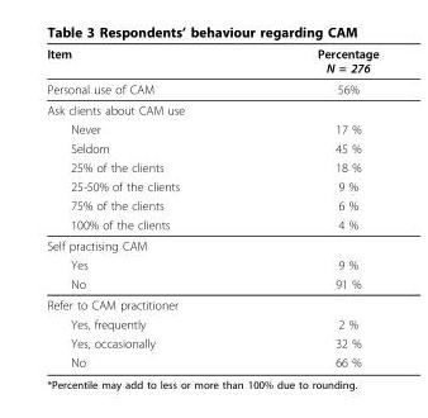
<table><thead><tr><td>Item</td><td>Percentage N = 276</td></tr></thead><tbody><tr><td>Personal use of CAM</td><td>56%</td></tr><tr><td colspan="2">Ask clients about CAM use</td></tr><tr><td>Never</td><td>17 %</td></tr><tr><td>Seldom</td><td>45 %</td></tr><tr><td>25% of the clients</td><td>18 %</td></tr><tr><td>25-50% of the clients</td><td>9 %</td></tr><tr><td>75% of the clients</td><td>6 %</td></tr><tr><td>100% of the clients</td><td>4 %</td></tr><tr><td colspan="2">Self practising CAM</td></tr><tr><td>Yes</td><td>9 %</td></tr><tr><td>No</td><td>91 %</td></tr><tr><td colspan="2">Refer to CAM practitioner</td></tr><tr><td>Yes, frequently</td><td>2 %</td></tr><tr><td>Yes, occasionally</td><td>32 %</td></tr><tr><td>No</td><td>66 %</td></tr></tbody></table>